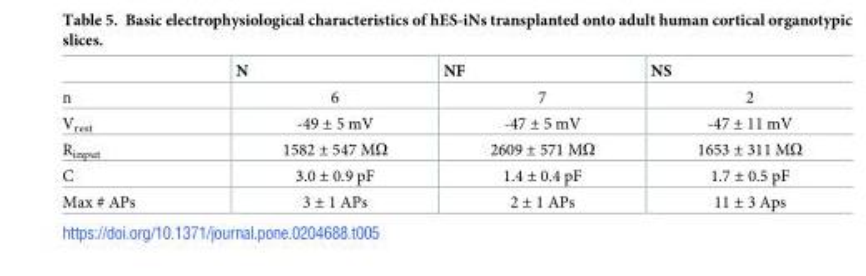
<table><thead><tr><td></td><td>N</td><td>NF</td><td>NS</td></tr></thead><tbody><tr><td>n</td><td>6</td><td>7</td><td>2</td></tr><tr><td>V<sub>rest</sub></td><td>-49 ± 5 mV</td><td>-47 ± 5 mV</td><td>-47 ± 11 mV</td></tr><tr><td>R<sub>input</sub></td><td>1582 ± 547 MΩ</td><td>2609 ± 571 MΩ</td><td>1653 ± 311 MΩ</td></tr><tr><td>C</td><td>3.0 ± 0.9 pF</td><td>1.4 ± 0.4 pF</td><td>1.7 ± 0.5 pF</td></tr><tr><td>Max # APs</td><td>3 ± 1 APs</td><td>2 ± 1 APs</td><td>11 ± 3 Aps</td></tr></tbody></table>